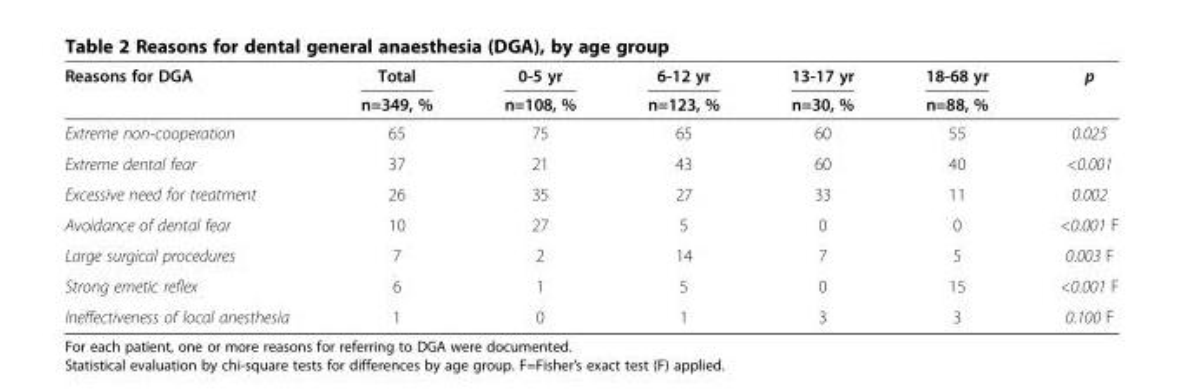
<table><thead><tr><td rowspan="2">Reasons for DGA</td><td rowspan="2">Total n=349, %</td><td rowspan="2">0-5 yr n=108, %</td><td rowspan="2">6-12 yr n=123, %</td><td rowspan="2">13-17 yr n=30, %</td><td rowspan="2">18-68 yr n=88, %</td><td rowspan="2">p</td></tr><tr></tr></thead><tbody><tr><td>Extreme non-cooperation</td><td>65</td><td>75</td><td>65</td><td>60</td><td>55</td><td>0.025</td></tr><tr><td>Extreme dental fear</td><td>37</td><td>21</td><td>43</td><td>60</td><td>40</td><td>&lt;0.001</td></tr><tr><td>Excessive need for treatment</td><td>26</td><td>35</td><td>27</td><td>33</td><td>11</td><td>0.002</td></tr><tr><td>Avoidance of dental fear</td><td>10</td><td>27</td><td>5</td><td>0</td><td>0</td><td>&lt;0.001 F</td></tr><tr><td>Large surgical procedures</td><td>7</td><td>2</td><td>14</td><td>7</td><td>5</td><td>0.003 F</td></tr><tr><td>Strong emetic reflex</td><td>6</td><td>1</td><td>5</td><td>0</td><td>15</td><td>&lt;0.001 F</td></tr><tr><td>Ineffectiveness of local anesthesia</td><td>1</td><td>0</td><td>1</td><td>3</td><td>3</td><td>0.100 F</td></tr></tbody></table>